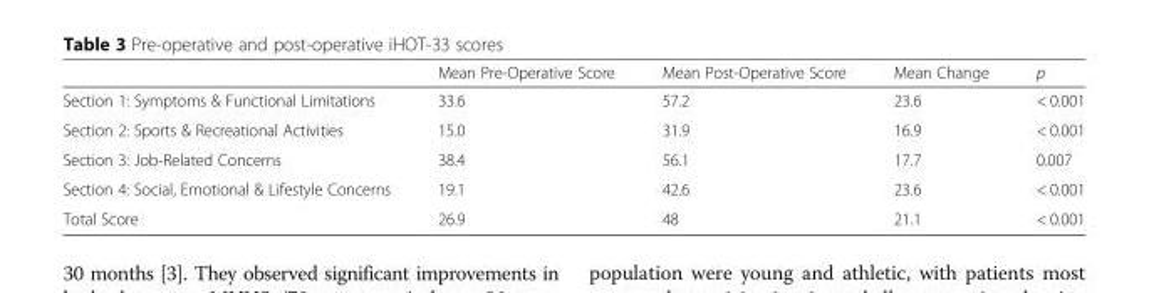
<table><thead><tr><td></td><td>Mean Pre-Operative Score</td><td>Mean Post-Operative Score</td><td>Mean Change</td><td>p</td></tr></thead><tbody><tr><td>Section 1: Symptoms &amp; Functional Limitations</td><td>33.6</td><td>57.2</td><td>23.6</td><td>&lt; 0.001</td></tr><tr><td>Section 2: Sports &amp; Recreational Activities</td><td>15.0</td><td>31.9</td><td>16.9</td><td>&lt; 0.001</td></tr><tr><td>Section 3: Job-Related Concerns</td><td>38.4</td><td>56.1</td><td>17.7</td><td>0.007</td></tr><tr><td>Section 4: Social, Emotional &amp; Lifestyle Concerns</td><td>19.1</td><td>42.6</td><td>23.6</td><td>&lt; 0.001</td></tr><tr><td>Total Score</td><td>26.9</td><td>48</td><td>21.1</td><td>&lt; 0.001</td></tr></tbody></table>